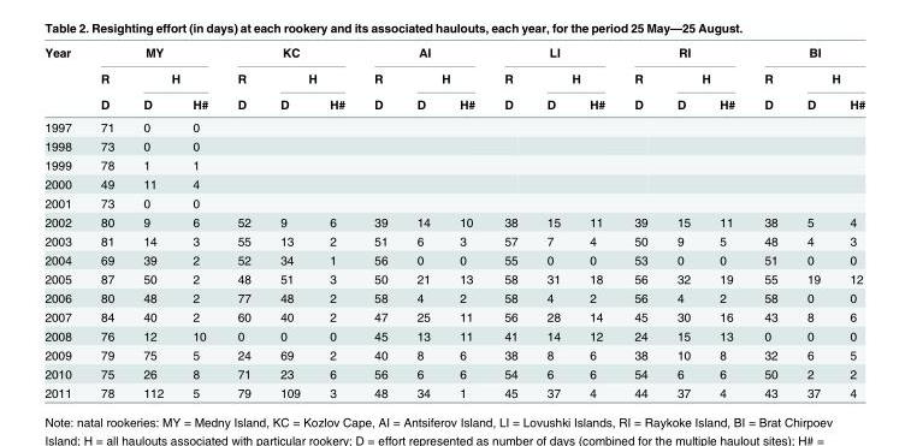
<table><thead><tr><td rowspan="3">Year</td><td colspan="3">MY</td><td colspan="3">KC</td><td colspan="3">AI</td><td colspan="3">LI</td><td colspan="3">RI</td><td colspan="3">BI</td></tr><tr><td rowspan="2">R D</td><td colspan="2">H</td><td rowspan="2">R D</td><td colspan="2">H</td><td rowspan="2">R D</td><td colspan="2">H</td><td rowspan="2">R D</td><td colspan="2">H</td><td rowspan="2">R D</td><td colspan="2">H</td><td rowspan="2">R D</td><td colspan="2">H</td></tr><tr><td>D</td><td>H#</td><td>D</td><td>H#</td><td>D</td><td>H#</td><td>D</td><td>H#</td><td>D</td><td>H#</td><td>D</td><td>H#</td></tr></thead><tbody><tr><td>1997</td><td>71</td><td>0</td><td>0</td><td></td><td></td><td></td><td></td><td></td><td></td><td></td><td></td><td></td><td></td><td></td><td></td><td></td><td></td><td></td></tr><tr><td>1998</td><td>73</td><td>0</td><td>0</td><td></td><td></td><td></td><td></td><td></td><td></td><td></td><td></td><td></td><td></td><td></td><td></td><td></td><td></td><td></td></tr><tr><td>1999</td><td>78</td><td>1</td><td>1</td><td></td><td></td><td></td><td></td><td></td><td></td><td></td><td></td><td></td><td></td><td></td><td></td><td></td><td></td><td></td></tr><tr><td>2000</td><td>49</td><td>11</td><td>4</td><td></td><td></td><td></td><td></td><td></td><td></td><td></td><td></td><td></td><td></td><td></td><td></td><td></td><td></td><td></td></tr><tr><td>2001</td><td>73</td><td>0</td><td>0</td><td></td><td></td><td></td><td></td><td></td><td></td><td></td><td></td><td></td><td></td><td></td><td></td><td></td><td></td><td></td></tr><tr><td>2002</td><td>80</td><td>9</td><td>6</td><td>52</td><td>9</td><td>6</td><td>39</td><td>14</td><td>10</td><td>38</td><td>15</td><td>11</td><td>39</td><td>15</td><td>11</td><td>38</td><td>5</td><td>4</td></tr><tr><td>2003</td><td>81</td><td>14</td><td>3</td><td>55</td><td>13</td><td>2</td><td>51</td><td>6</td><td>3</td><td>57</td><td>7</td><td>4</td><td>50</td><td>9</td><td>5</td><td>48</td><td>4</td><td>3</td></tr><tr><td>2004</td><td>69</td><td>39</td><td>2</td><td>52</td><td>34</td><td>1</td><td>56</td><td>0</td><td>0</td><td>55</td><td>0</td><td>0</td><td>53</td><td>0</td><td>0</td><td>51</td><td>0</td><td>0</td></tr><tr><td>2005</td><td>87</td><td>50</td><td>2</td><td>48</td><td>51</td><td>3</td><td>50</td><td>21</td><td>13</td><td>58</td><td>31</td><td>18</td><td>56</td><td>32</td><td>19</td><td>55</td><td>19</td><td>12</td></tr><tr><td>2006</td><td>80</td><td>48</td><td>2</td><td>77</td><td>48</td><td>2</td><td>58</td><td>4</td><td>2</td><td>58</td><td>4</td><td>2</td><td>56</td><td>4</td><td>2</td><td>58</td><td>0</td><td>0</td></tr><tr><td>2007</td><td>84</td><td>40</td><td>2</td><td>60</td><td>40</td><td>2</td><td>47</td><td>25</td><td>11</td><td>56</td><td>28</td><td>14</td><td>45</td><td>30</td><td>16</td><td>43</td><td>8</td><td>6</td></tr><tr><td>2008</td><td>76</td><td>12</td><td>10</td><td>0</td><td>0</td><td>0</td><td>45</td><td>13</td><td>11</td><td>41</td><td>14</td><td>12</td><td>24</td><td>15</td><td>13</td><td>0</td><td>0</td><td>0</td></tr><tr><td>2009</td><td>79</td><td>75</td><td>5</td><td>24</td><td>69</td><td>2</td><td>40</td><td>8</td><td>6</td><td>38</td><td>8</td><td>6</td><td>38</td><td>10</td><td>8</td><td>32</td><td>6</td><td>5</td></tr><tr><td>2010</td><td>75</td><td>26</td><td>8</td><td>71</td><td>23</td><td>6</td><td>56</td><td>6</td><td>6</td><td>54</td><td>6</td><td>6</td><td>54</td><td>6</td><td>6</td><td>50</td><td>2</td><td>2</td></tr><tr><td>2011</td><td>78</td><td>112</td><td>5</td><td>79</td><td>109</td><td>3</td><td>48</td><td>34</td><td>1</td><td>45</td><td>37</td><td>4</td><td>44</td><td>37</td><td>4</td><td>43</td><td>37</td><td>4</td></tr></tbody></table>